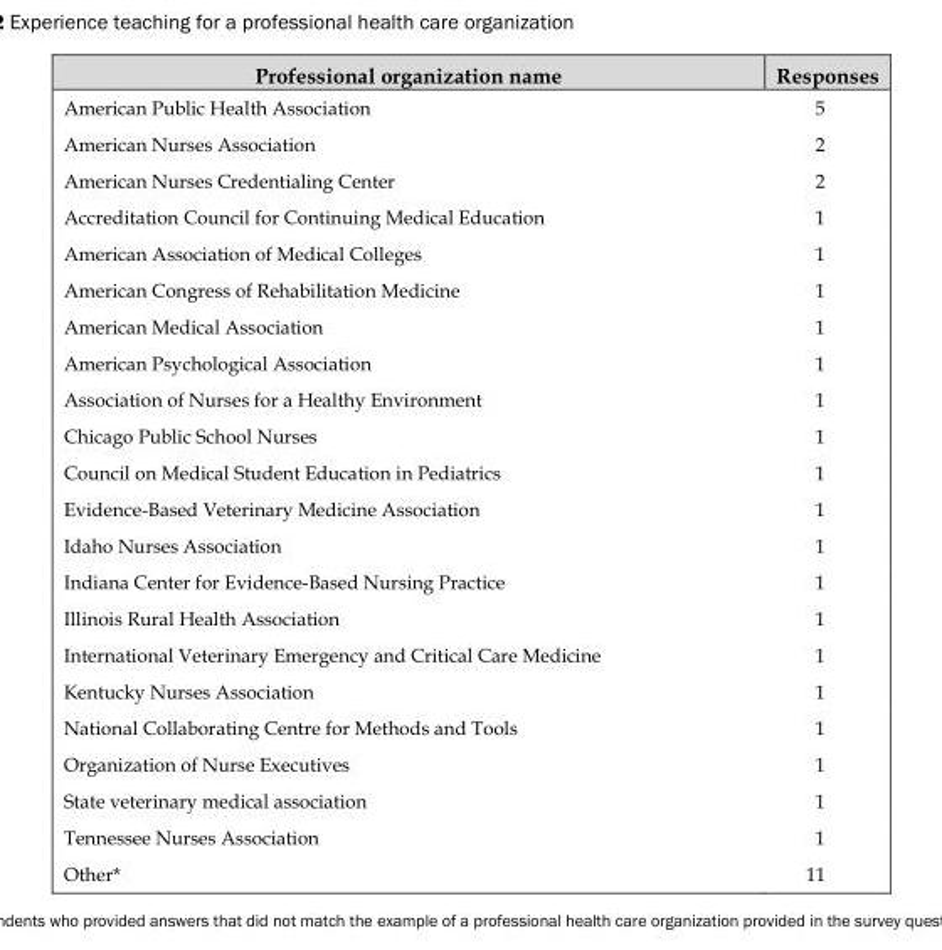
<table><thead><tr><td>Professional organization name</td><td>Responses</td></tr></thead><tbody><tr><td>American Public Health Association</td><td>5</td></tr><tr><td>American Nurses Association</td><td>2</td></tr><tr><td>American Nurses Credentialing Center</td><td>2</td></tr><tr><td>Accreditation Council for Continuing Medical Education</td><td>1</td></tr><tr><td>American Association of Medical Colleges</td><td>1</td></tr><tr><td>American Congress of Rehabilitation Medicine</td><td>1</td></tr><tr><td>American Medical Association</td><td>1</td></tr><tr><td>American Psychological Association</td><td>1</td></tr><tr><td>Association of Nurses for a Healthy Environment</td><td>1</td></tr><tr><td>Chicago Public School Nurses</td><td>1</td></tr><tr><td>Council on Medical Student Education in Pediatrics</td><td>1</td></tr><tr><td>Evidence-Based Veterinary Medicine Association</td><td>1</td></tr><tr><td>Idaho Nurses Association</td><td>1</td></tr><tr><td>Indiana Center for Evidence-Based Nursing Practice</td><td>1</td></tr><tr><td>Illinois Rural Health Association</td><td>1</td></tr><tr><td>International Veterinary Emergency and Critical Care Medicine</td><td>1</td></tr><tr><td>Kentucky Nurses Association</td><td>1</td></tr><tr><td>National Collaborating Centre for Methods and Tools</td><td>1</td></tr><tr><td>Organization of Nurse Executives</td><td>1</td></tr><tr><td>State veterinary medical association</td><td>1</td></tr><tr><td>Tennessee Nurses Association</td><td>1</td></tr><tr><td>Other*</td><td>11</td></tr></tbody></table>